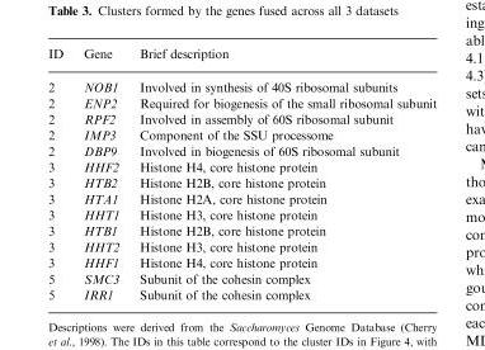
<table><thead><tr><td>ID</td><td>Gene</td><td>Brief description</td></tr></thead><tbody><tr><td>2</td><td>NOB1</td><td>Involved in synthesis of 40S ribosomal subunits</td></tr><tr><td>2</td><td>ENP2</td><td>Required for biogenesis of the small ribosomal subunit</td></tr><tr><td>2</td><td>RPF2</td><td>Involved in assembly of 60S ribosomal subunit</td></tr><tr><td>2</td><td>IMP3</td><td>Component of the SSU processome</td></tr><tr><td>2</td><td>DBP9</td><td>Involved in biogenesis of 60S ribosomal subunit</td></tr><tr><td>3</td><td>HHF2</td><td>Histone H4, core histone protein</td></tr><tr><td>3</td><td>HTB2</td><td>Histone H2B, core histone protein</td></tr><tr><td>3</td><td>HTA1</td><td>Histone H2A, core histone protein</td></tr><tr><td>3</td><td>HHT1</td><td>Histone H3, core histone protein</td></tr><tr><td>3</td><td>HTB1</td><td>Histone H2B, core histone protein</td></tr><tr><td>3</td><td>HHT2</td><td>Histone H3, core histone protein</td></tr><tr><td>3</td><td>HHF1</td><td>Histone H4, core histone protein</td></tr><tr><td>5</td><td>SMC3</td><td>Subunit of the cohesin complex</td></tr><tr><td>5</td><td>IRR1</td><td>Subunit of the cohesin complex</td></tr></tbody></table>